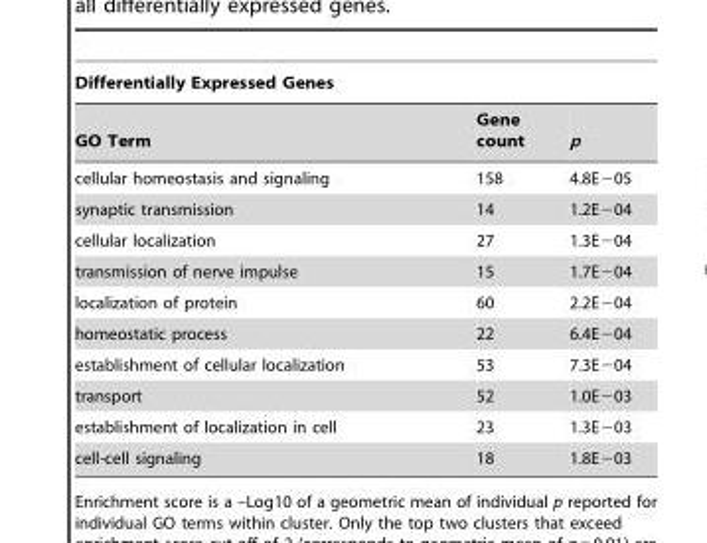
<table><thead><tr><td colspan="3">Differentially Expressed Genes</td></tr><tr><td>GO Term</td><td>Gene count</td><td>p</td></tr></thead><tbody><tr><td>cellular homeostasis and signaling</td><td>158</td><td>4.8E−05</td></tr><tr><td>synaptic transmission</td><td>14</td><td>1.2E−04</td></tr><tr><td>cellular localization</td><td>27</td><td>1.3E−04</td></tr><tr><td>transmission of nerve impulse</td><td>15</td><td>1.7E−04</td></tr><tr><td>localization of protein</td><td>60</td><td>2.2E−04</td></tr><tr><td>homeostatic process</td><td>22</td><td>6.4E−04</td></tr><tr><td>establishment of cellular localization</td><td>53</td><td>7.3E−04</td></tr><tr><td>transport</td><td>52</td><td>1.0E−03</td></tr><tr><td>establishment of localization in cell</td><td>23</td><td>1.3E−03</td></tr><tr><td>cell-cell signaling</td><td>18</td><td>1.8E−03</td></tr></tbody></table>